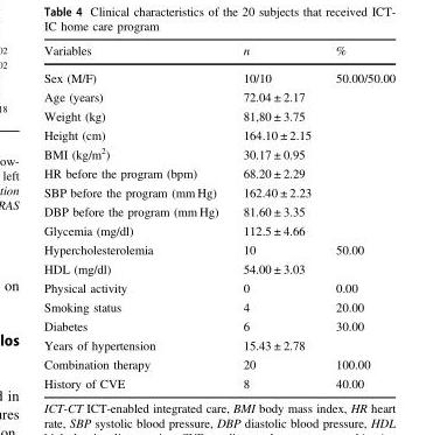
<table><thead><tr><td>Variables</td><td>n</td><td>%</td></tr></thead><tbody><tr><td>Sex (M/F)</td><td>10/10</td><td>50.00/50.00</td></tr><tr><td>Age (years)</td><td>72.04 ± 2.17</td><td></td></tr><tr><td>Weight (kg)</td><td>81,80 ± 3.75</td><td></td></tr><tr><td>Height (cm)</td><td>164.10 ± 2.15</td><td></td></tr><tr><td>BMI (kg/m<sup>2</sup>)</td><td>30.17 ± 0.95</td><td></td></tr><tr><td>HR before the program (bpm)</td><td>68.20 ± 2.29</td><td></td></tr><tr><td>SBP before the program (mm Hg)</td><td>162.40 ± 2.23</td><td></td></tr><tr><td>DBP before the program (mm Hg)</td><td>81.60 ± 3.35</td><td></td></tr><tr><td>Glycemia (mg/dl)</td><td>112.5 ± 4.66</td><td></td></tr><tr><td>Hypercholesterolemia</td><td>10</td><td>50.00</td></tr><tr><td>HDL (mg/dl)</td><td>54.00 ± 3.03</td><td></td></tr><tr><td>Physical activity</td><td>0</td><td>0.00</td></tr><tr><td>Smoking status</td><td>4</td><td>20.00</td></tr><tr><td>Diabetes</td><td>6</td><td>30.00</td></tr><tr><td>Years of hypertension</td><td>15.43 ± 2.78</td><td></td></tr><tr><td>Combination therapy</td><td>20</td><td>100.00</td></tr><tr><td>History of CVE</td><td>8</td><td>40.00</td></tr></tbody></table>